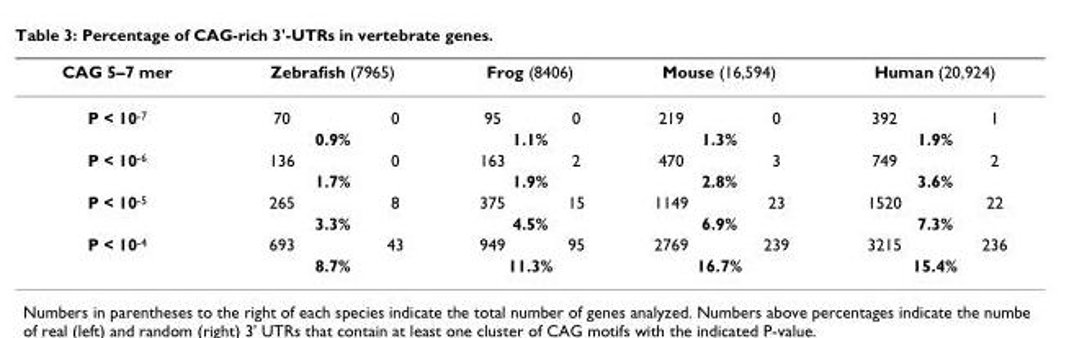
<table><thead><tr><td rowspan="2">CAG 5–7 mer P &lt; 10<sup>-7</sup></td><td colspan="2">Zebrafish (7965)</td><td colspan="2">Frog (8406)</td><td colspan="2">Mouse (16,594)</td><td colspan="2">Human (20,924)</td></tr><tr><td>70</td><td>0</td><td>95</td><td>0</td><td>219</td><td>0</td><td>392</td><td>1</td></tr></thead><tbody><tr><td></td><td colspan="2">0.9%</td><td colspan="2">1.1%</td><td colspan="2">1.3%</td><td colspan="2">1.9%</td></tr><tr><td rowspan="2">P &lt; 10<sup>-6</sup></td><td>136</td><td>0</td><td>163</td><td>2</td><td>470</td><td>3</td><td>749</td><td>2</td></tr><tr><td colspan="2">1.7%</td><td colspan="2">1.9%</td><td colspan="2">2.8%</td><td colspan="2">3.6%</td></tr><tr><td rowspan="2">P &lt; 10<sup>-5</sup></td><td>265</td><td>8</td><td>375</td><td>15</td><td>1149</td><td>23</td><td>1520</td><td>22</td></tr><tr><td colspan="2">3.3%</td><td colspan="2">4.5%</td><td colspan="2">6.9%</td><td colspan="2">7.3%</td></tr><tr><td rowspan="2">P &lt; 10<sup>-4</sup></td><td>693</td><td>43</td><td>949</td><td>95</td><td>2769</td><td>239</td><td>3215</td><td>236</td></tr><tr><td colspan="2">8.7%</td><td colspan="2">11.3%</td><td colspan="2">16.7%</td><td colspan="2">15.4%</td></tr></tbody></table>